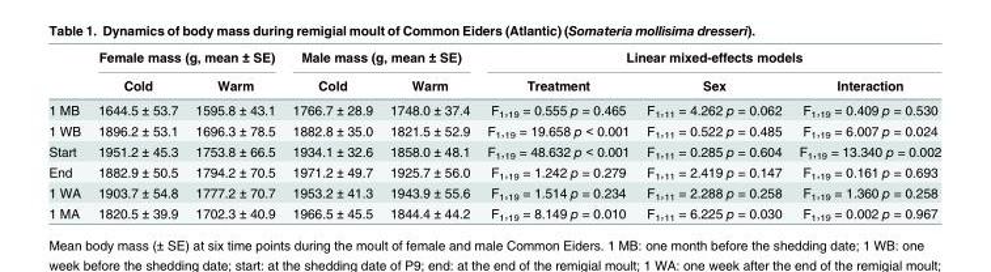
<table><thead><tr><td rowspan="2"></td><td colspan="2">Female mass (g, mean ± SE)</td><td colspan="2">Male mass (g, mean ± SE)</td><td colspan="3">Linear mixed-effects models</td></tr><tr><td>Cold</td><td>Warm</td><td>Cold</td><td>Warm</td><td>Treatment</td><td>Sex</td><td>Interaction</td></tr></thead><tbody><tr><td>1 MB</td><td>1644.5 ± 53.7</td><td>1595.8 ± 43.1</td><td>1766.7 ± 28.9</td><td>1748.0 ± 37.4</td><td>F<sub>1</sub>,<sub>19</sub> = 0.555 p = 0.465</td><td>F<sub>1</sub>,<sub>11</sub> = 4.262 p = 0.062</td><td>F<sub>1</sub>,<sub>19</sub> = 0.409 p = 0.530</td></tr><tr><td>1 WB</td><td>1896.2 ± 53.1</td><td>1696.3 ± 78.5</td><td>1882.8 ± 35.0</td><td>1821.5 ± 52.9</td><td>F<sub>1</sub>,<sub>19</sub> = 19.658 p &lt; 0.001</td><td>F<sub>1</sub>,<sub>11</sub> = 0.522 p = 0.485</td><td>F<sub>1</sub>,<sub>19</sub> = 6.007 p = 0.024</td></tr><tr><td>Start</td><td>1951.2 ± 45.3</td><td>1753.8 ± 66.5</td><td>1934.1 ± 32.6</td><td>1858.0 ± 48.1</td><td>F<sub>1</sub>,<sub>19</sub> = 48.632 p &lt; 0.001</td><td>F<sub>1</sub>,<sub>11</sub> = 0.285 p = 0.604</td><td>F<sub>1</sub>,<sub>19</sub> = 13.340 p = 0.002</td></tr><tr><td>End</td><td>1882.9 ± 50.5</td><td>1794.2 ± 70.5</td><td>1971.2 ± 49.7</td><td>1925.7 ± 56.0</td><td>F<sub>1</sub>,<sub>19</sub> = 1.242 p = 0.279</td><td>F<sub>1</sub>,<sub>11</sub> = 2.419 p = 0.147</td><td>F<sub>1</sub>,<sub>19</sub> = 0.161 p = 0.693</td></tr><tr><td>1 WA</td><td>1903.7 ± 54.8</td><td>1777.2 ± 70.7</td><td>1953.2 ± 41.3</td><td>1943.9 ± 55.6</td><td>F<sub>1</sub>,<sub>19</sub> = 1.514 p = 0.234</td><td>F<sub>1</sub>,<sub>11</sub> = 2.288 p = 0.258</td><td>F<sub>1</sub>,<sub>19</sub> = 1.360 p = 0.258</td></tr><tr><td>1 MA</td><td>1820.5 ± 39.9</td><td>1702.3 ± 40.9</td><td>1966.5 ± 45.5</td><td>1844.4 ± 44.2</td><td>F<sub>1</sub>,<sub>19</sub> = 8.149 p = 0.010</td><td>F<sub>1</sub>,<sub>11</sub> = 6.225 p = 0.030</td><td>F<sub>1</sub>,<sub>19</sub> = 0.002 p = 0.967</td></tr></tbody></table>